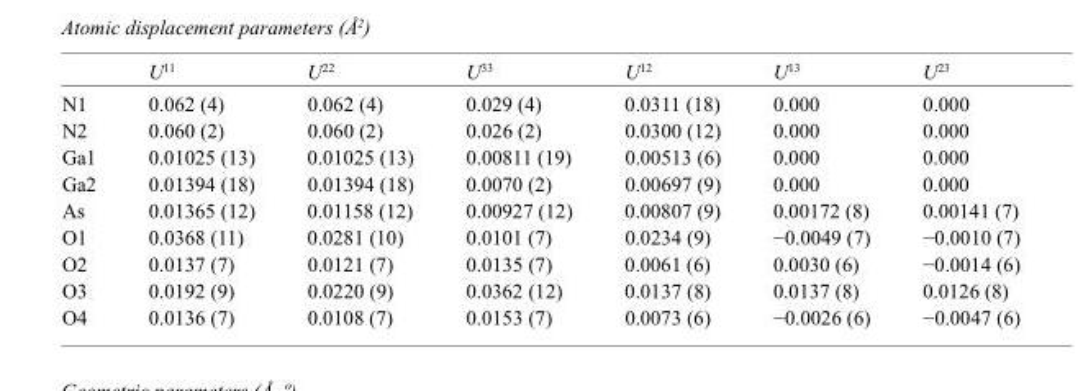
<table><thead><tr><td></td><td>U<sup>11</sup></td><td>U<sup>22</sup></td><td>U<sup>33</sup></td><td>U<sup>12</sup></td><td>U<sup>13</sup></td><td>U<sup>23</sup></td></tr></thead><tbody><tr><td>N1</td><td>0.062 (4)</td><td>0.062 (4)</td><td>0.029 (4)</td><td>0.0311 (18)</td><td>0.000</td><td>0.000</td></tr><tr><td>N2</td><td>0.060 (2)</td><td>0.060 (2)</td><td>0.026 (2)</td><td>0.0300 (12)</td><td>0.000</td><td>0.000</td></tr><tr><td>Ga1</td><td>0.01025 (13)</td><td>0.01025 (13)</td><td>0.00811 (19)</td><td>0.00513 (6)</td><td>0.000</td><td>0.000</td></tr><tr><td>Ga2</td><td>0.01394 (18)</td><td>0.01394 (18)</td><td>0.0070 (2)</td><td>0.00697 (9)</td><td>0.000</td><td>0.000</td></tr><tr><td>As</td><td>0.01365 (12)</td><td>0.01158 (12)</td><td>0.00927 (12)</td><td>0.00807 (9)</td><td>0.00172 (8)</td><td>0.00141 (7)</td></tr><tr><td>O1</td><td>0.0368 (11)</td><td>0.0281 (10)</td><td>0.0101 (7)</td><td>0.0234 (9)</td><td>−0.0049 (7)</td><td>−0.0010 (7)</td></tr><tr><td>O2</td><td>0.0137 (7)</td><td>0.0121 (7)</td><td>0.0135 (7)</td><td>0.0061 (6)</td><td>0.0030 (6)</td><td>−0.0014 (6)</td></tr><tr><td>O3</td><td>0.0192 (9)</td><td>0.0220 (9)</td><td>0.0362 (12)</td><td>0.0137 (8)</td><td>0.0137 (8)</td><td>0.0126 (8)</td></tr><tr><td>O4</td><td>0.0136 (7)</td><td>0.0108 (7)</td><td>0.0153 (7)</td><td>0.0073 (6)</td><td>−0.0026 (6)</td><td>−0.0047 (6)</td></tr></tbody></table>